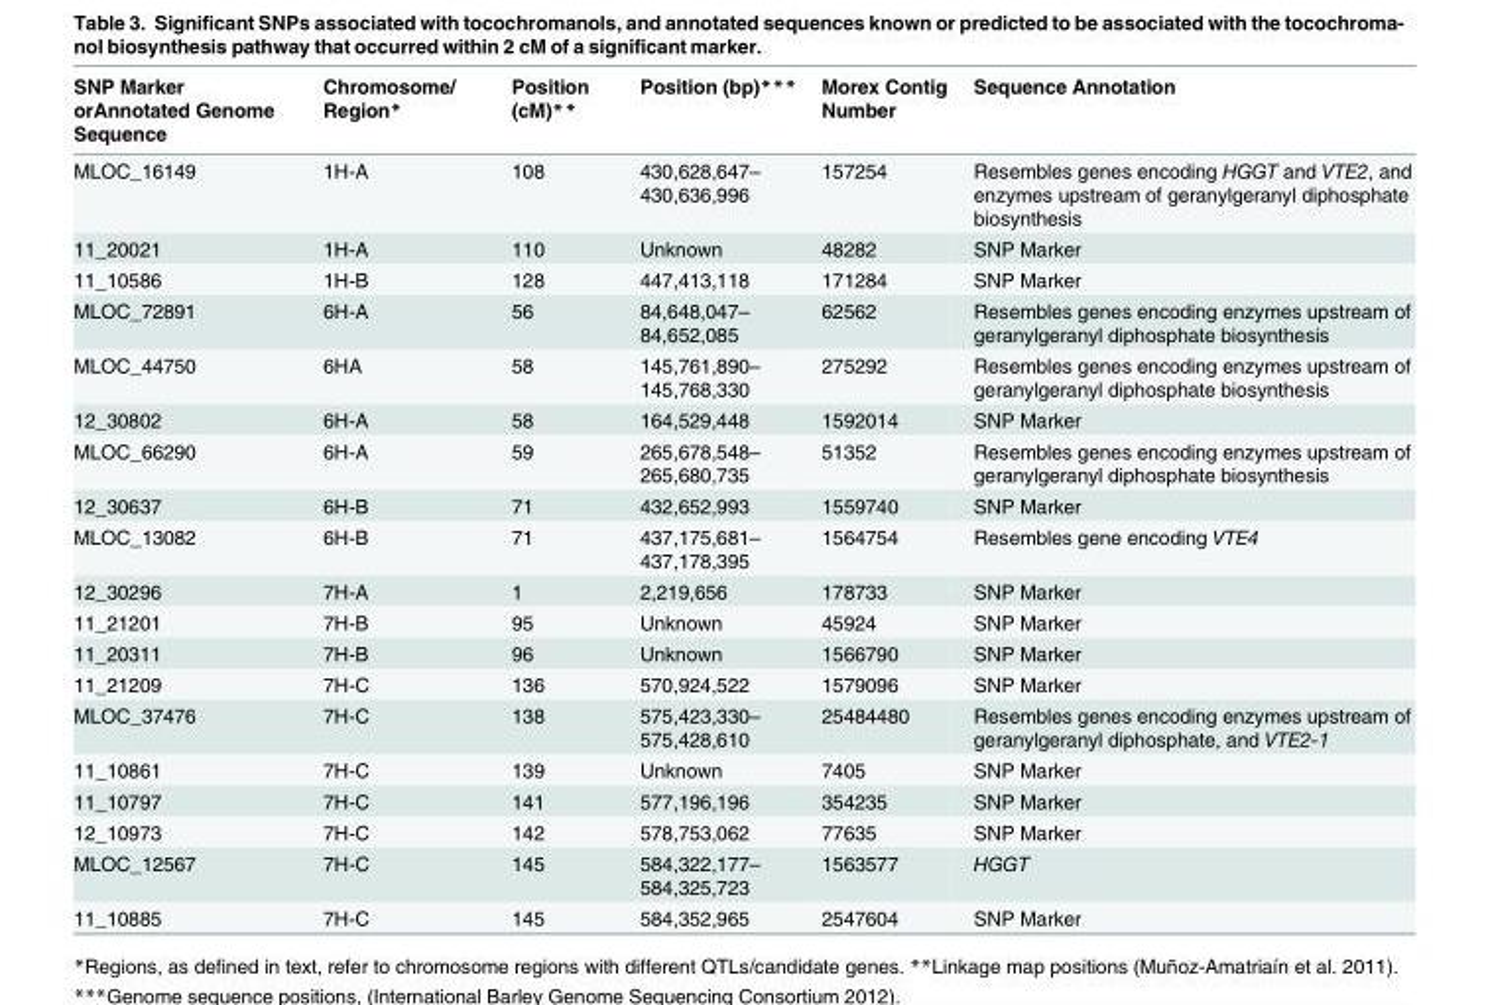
<table><thead><tr><td>SNP Marker orAnnotated Genome Sequence</td><td>Chromosome/ Region*</td><td>Position (cM)**</td><td>Position (bp)***</td><td>Morex Contig Number</td><td>Sequence Annotation</td></tr></thead><tbody><tr><td>MLOC_16149</td><td>1H-A</td><td>108</td><td>430,628,647– 430,636,996</td><td>157254</td><td>Resembles genes encoding HGGT and VTE2, and enzymes upstream of geranylgeranyl diphosphate biosynthesis</td></tr><tr><td>11_20021</td><td>1H-A</td><td>110</td><td>Unknown</td><td>48282</td><td>SNP Marker</td></tr><tr><td>11_10586</td><td>1H-B</td><td>128</td><td>447,413,118</td><td>171284</td><td>SNP Marker</td></tr><tr><td>MLOC_72891</td><td>6H-A</td><td>56</td><td>84,648,047– 84,652,085</td><td>62562</td><td>Resembles genes encoding enzymes upstream of geranylgeranyl diphosphate biosynthesis</td></tr><tr><td>MLOC_44750</td><td>6HA</td><td>58</td><td>145,761,890– 145,768,330</td><td>275292</td><td>Resembles genes encoding enzymes upstream of geranylgeranyl diphosphate biosynthesis</td></tr><tr><td>12_30802</td><td>6H-A</td><td>58</td><td>164,529,448</td><td>1592014</td><td>SNP Marker</td></tr><tr><td>MLOC_66290</td><td>6H-A</td><td>59</td><td>265,678,548– 265,680,735</td><td>51352</td><td>Resembles genes encoding enzymes upstream of geranylgeranyl diphosphate biosynthesis</td></tr><tr><td>12_30637</td><td>6H-B</td><td>71</td><td>432,652,993</td><td>1559740</td><td>SNP Marker</td></tr><tr><td>MLOC_13082</td><td>6H-B</td><td>71</td><td>437,175,681– 437,178,395</td><td>1564754</td><td>Resembles gene encoding VTE4</td></tr><tr><td>12_30296</td><td>7H-A</td><td>1</td><td>2,219,656</td><td>178733</td><td>SNP Marker</td></tr><tr><td>11_21201</td><td>7H-B</td><td>95</td><td>Unknown</td><td>45924</td><td>SNP Marker</td></tr><tr><td>11_20311</td><td>7H-B</td><td>96</td><td>Unknown</td><td>1566790</td><td>SNP Marker</td></tr><tr><td>11_21209</td><td>7H-C</td><td>136</td><td>570,924,522</td><td>1579096</td><td>SNP Marker</td></tr><tr><td>MLOC_37476</td><td>7H-C</td><td>138</td><td>575,423,330– 575,428,610</td><td>25484480</td><td>Resembles genes encoding enzymes upstream of geranylgeranyl diphosphate, and VTE2-1</td></tr><tr><td>11_10861</td><td>7H-C</td><td>139</td><td>Unknown</td><td>7405</td><td>SNP Marker</td></tr><tr><td>11_10797</td><td>7H-C</td><td>141</td><td>577,196,196</td><td>354235</td><td>SNP Marker</td></tr><tr><td>12_10973</td><td>7H-C</td><td>142</td><td>578,753,062</td><td>77635</td><td>SNP Marker</td></tr><tr><td>MLOC_12567</td><td>7H-C</td><td>145</td><td>584,322,177– 584,325,723</td><td>1563577</td><td>HGGT</td></tr><tr><td>11_10885</td><td>7H-C</td><td>145</td><td>584,352,965</td><td>2547604</td><td>SNP Marker</td></tr></tbody></table>